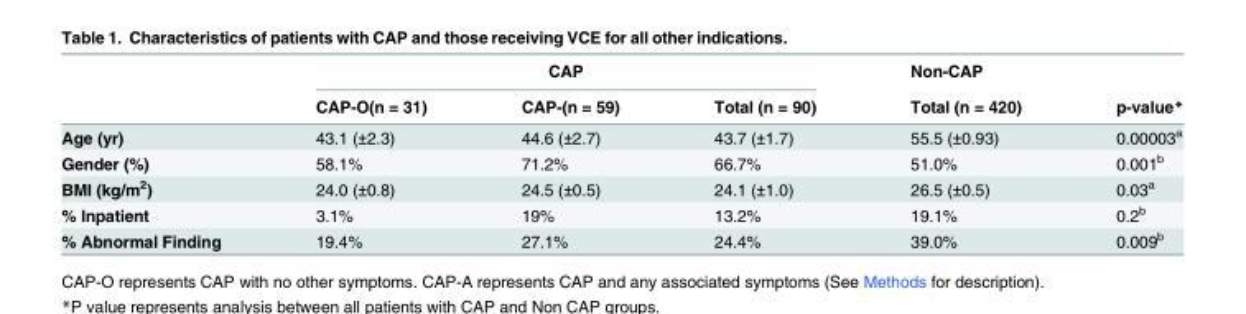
<table><thead><tr><td rowspan="2"></td><td colspan="3">CAP</td><td rowspan="2">Non-CAP Total (n = 420)</td><td rowspan="2">p-value*</td></tr><tr><td>CAP-O(n = 31)</td><td>CAP-(n = 59)</td><td>Total (n = 90)</td></tr></thead><tbody><tr><td>Age (yr)</td><td>43.1 (±2.3)</td><td>44.6 (±2.7)</td><td>43.7 (±1.7)</td><td>55.5 (±0.93)</td><td>0.00003<sup>a</sup></td></tr><tr><td>Gender (%)</td><td>58.1%</td><td>71.2%</td><td>66.7%</td><td>51.0%</td><td>0.001<sup>b</sup></td></tr><tr><td>BMI (kg/m<sup>2</sup>)</td><td>24.0 (±0.8)</td><td>24.5 (±0.5)</td><td>24.1 (±1.0)</td><td>26.5 (±0.5)</td><td>0.03<sup>a</sup></td></tr><tr><td>% Inpatient</td><td>3.1%</td><td>19%</td><td>13.2%</td><td>19.1%</td><td>0.2<sup>b</sup></td></tr><tr><td>% Abnormal Finding</td><td>19.4%</td><td>27.1%</td><td>24.4%</td><td>39.0%</td><td>0.009<sup>b</sup></td></tr></tbody></table>